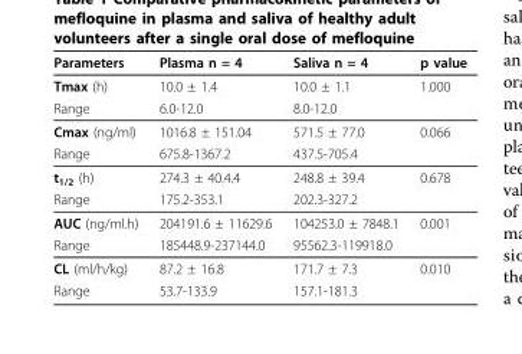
<table><thead><tr><td>Parameters</td><td>Plasma n = 4</td><td>Saliva n = 4</td><td>p value</td></tr></thead><tbody><tr><td>Tmax (h)</td><td>10.0 ± 1.4</td><td>10.0 ± 1.1</td><td>1.000</td></tr><tr><td>Range</td><td>6.0-12.0</td><td>8.0-12.0</td><td></td></tr><tr><td>Cmax (ng/ml)</td><td>1016.8 ± 151.04</td><td>571.5 ± 77.0</td><td>0.066</td></tr><tr><td>Range</td><td>675.8-1367.2</td><td>437.5-705.4</td><td></td></tr><tr><td>t<sub>1/2</sub> (h)</td><td>274.3 ± 40.4.4</td><td>248.8 ± 39.4</td><td>0.678</td></tr><tr><td>Range</td><td>175.2-353.1</td><td>202.3-327.2</td><td></td></tr><tr><td>AUC (ng/ml.h)</td><td>204191.6 ± 11629.6</td><td>104253.0 ± 7848.1</td><td>0.001</td></tr><tr><td>Range</td><td>185448.9-237144.0</td><td>95562.3-119918.0</td><td></td></tr><tr><td>CL (ml/h/kg)</td><td>87.2 ± 16.8</td><td>171.7 ± 7.3</td><td>0.010</td></tr><tr><td>Range</td><td>53.7-133.9</td><td>157.1-181.3</td><td></td></tr></tbody></table>